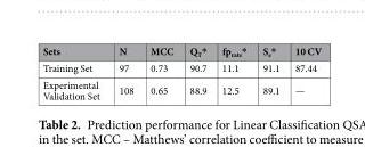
<table><thead><tr><td>Sets</td><td>N</td><td>MCC</td><td>Q<sub>T</sub>*</td><td>fp<sub>rate</sub>*</td><td>S<sub>e</sub>*</td><td>10 CV</td></tr></thead><tbody><tr><td>Training Set</td><td>97</td><td>0.73</td><td>90.7</td><td>11.1</td><td>91.1</td><td>87.44</td></tr><tr><td>Experimental Validation Set</td><td>108</td><td>0.65</td><td>88.9</td><td>12.5</td><td>89.1</td><td>—</td></tr></tbody></table>